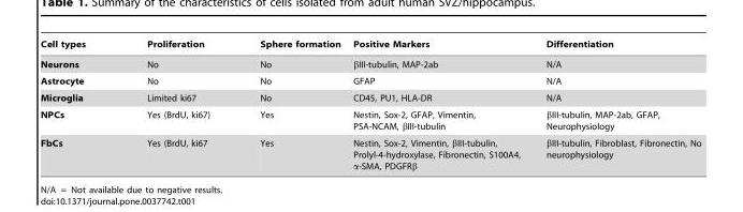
<table><thead><tr><td>Cell types</td><td>Proliferation</td><td>Sphere formation</td><td>Positive Markers</td><td>Differentiation</td></tr></thead><tbody><tr><td>Neurons</td><td>No</td><td>No</td><td>βIII-tubulin, MAP-2ab</td><td>N/A</td></tr><tr><td>Astrocyte</td><td>No</td><td>No</td><td>GFAP</td><td>N/A</td></tr><tr><td>Microglia</td><td>Limited ki67</td><td>No</td><td>CD45, PU1, HLA-DR</td><td>N/A</td></tr><tr><td>NPCs</td><td>Yes (BrdU, ki67)</td><td>Yes</td><td>Nestin, Sox-2, GFAP, Vimentin, PSA-NCAM, βIII-tubulin</td><td>βIII-tubulin, MAP-2ab, GFAP, Neurophysiology</td></tr><tr><td>FbCs</td><td>Yes (BrdU, ki67</td><td>Yes</td><td>Nestin, Sox-2, Vimentin, βIII-tubulin, Prolyl-4-hydroxylase, Fibronectin, S100A4, α-SMA, PDGFRβ</td><td>βIII-tubulin, Fibroblast, Fibronectin, No neurophysiology</td></tr></tbody></table>